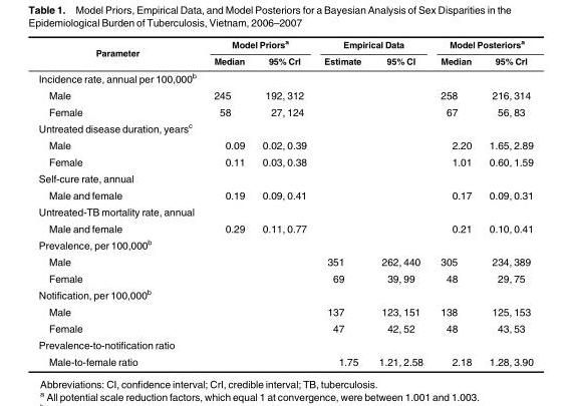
<table><thead><tr><td rowspan="2">Parameter</td><td colspan="2">Model Priors<sup>a</sup></td><td colspan="2">Empirical Data</td><td colspan="2">Model Posteriors<sup>a</sup></td></tr><tr><td>Median</td><td>95% CrI</td><td>Estimate</td><td>95% CI</td><td>Median</td><td>95% CrI</td></tr></thead><tbody><tr><td colspan="7">Incidence rate, annual per 100,000<sup>b</sup></td></tr><tr><td>Male</td><td>245</td><td>192, 312</td><td></td><td></td><td>258</td><td>216, 314</td></tr><tr><td>Female</td><td>58</td><td>27, 124</td><td></td><td></td><td>67</td><td>56, 83</td></tr><tr><td colspan="7">Untreated disease duration, years<sup>c</sup></td></tr><tr><td>Male</td><td>0.09</td><td>0.02, 0.39</td><td></td><td></td><td>2.20</td><td>1.65, 2.89</td></tr><tr><td>Female</td><td>0.11</td><td>0.03, 0.38</td><td></td><td></td><td>1.01</td><td>0.60, 1.59</td></tr><tr><td colspan="7">Self-cure rate, annual</td></tr><tr><td>Male and female</td><td>0.19</td><td>0.09, 0.41</td><td></td><td></td><td>0.17</td><td>0.09, 0.31</td></tr><tr><td colspan="7">Untreated-TB mortality rate, annual</td></tr><tr><td>Male and female</td><td>0.29</td><td>0.11, 0.77</td><td></td><td></td><td>0.21</td><td>0.10, 0.41</td></tr><tr><td colspan="7">Prevalence, per 100,000<sup>b</sup></td></tr><tr><td>Male</td><td></td><td></td><td>351</td><td>262, 440</td><td>305</td><td>234, 389</td></tr><tr><td>Female</td><td></td><td></td><td>69</td><td>39, 99</td><td>48</td><td>29, 75</td></tr><tr><td colspan="7">Notification, per 100,000<sup>b</sup></td></tr><tr><td>Male</td><td></td><td></td><td>137</td><td>123, 151</td><td>138</td><td>125, 153</td></tr><tr><td>Female</td><td></td><td></td><td>47</td><td>42, 52</td><td>48</td><td>43, 53</td></tr><tr><td colspan="7">Prevalence-to-notification ratio</td></tr><tr><td>Male-to-female ratio</td><td></td><td></td><td>1.75</td><td>1.21, 2.58</td><td>2.18</td><td>1.28, 3.90</td></tr></tbody></table>